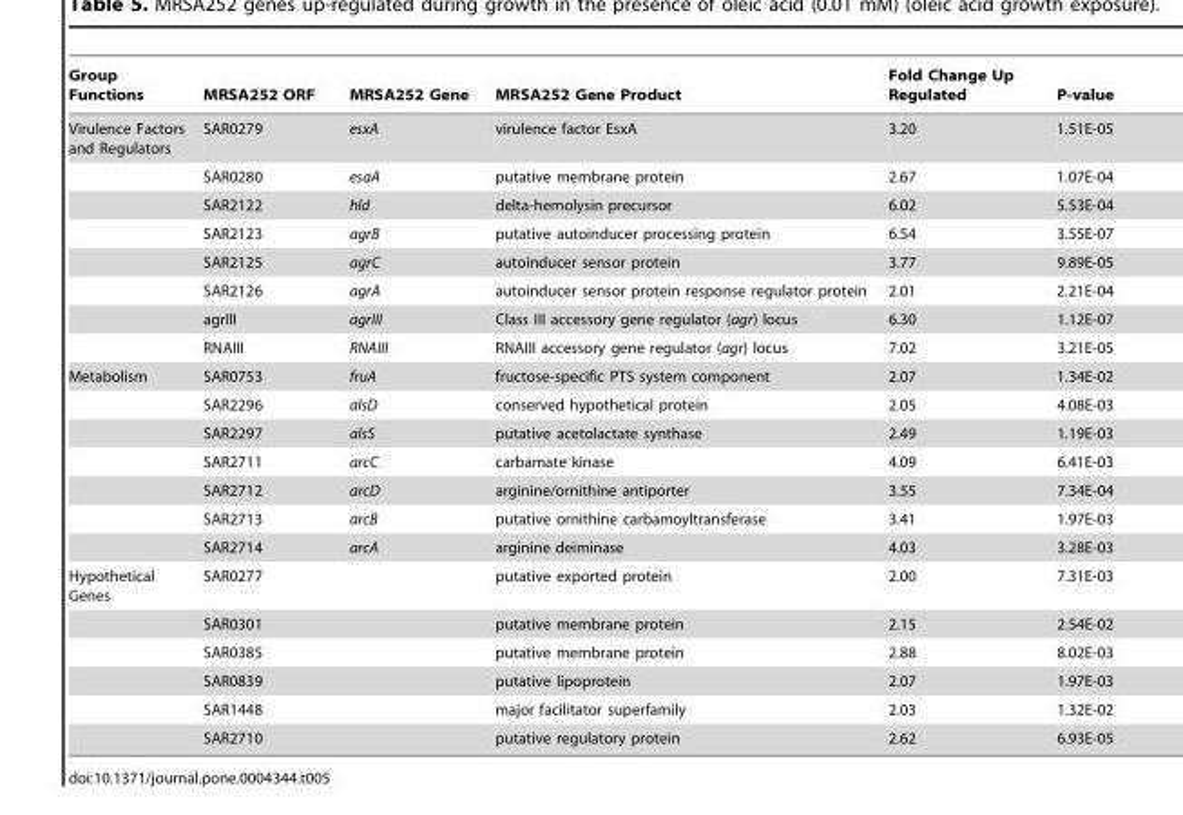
<table><thead><tr><td>Group Functions</td><td>MRSA252 ORF</td><td>MRSA252 Gene</td><td>MRSA252 Gene Product</td><td>Fold Change Up Regulated</td><td>P-value</td></tr></thead><tbody><tr><td rowspan="8">Virulence Factors and Regulators</td><td>SAR0279</td><td>esxA</td><td>virulence factor EsxA</td><td>3.20</td><td>1.51E-05</td></tr><tr><td>SAR0280</td><td>esaA</td><td>putative membrane protein</td><td>2.67</td><td>1.07E-04</td></tr><tr><td>SAR2122</td><td>hld</td><td>delta-hemolysin precursor</td><td>6.02</td><td>5.53E-04</td></tr><tr><td>SAR2123</td><td>agrB</td><td>putative autoinducer processing protein</td><td>6.54</td><td>3.55E-07</td></tr><tr><td>SAR2125</td><td>agrC</td><td>autoinducer sensor protein</td><td>3.77</td><td>9.89E-05</td></tr><tr><td>SAR2126</td><td>agrA</td><td>autoinducer sensor protein response regulator protein</td><td>2.01</td><td>2.21E-04</td></tr><tr><td>agrIII</td><td>agrIII</td><td>Class III accessory gene regulator (agr) locus</td><td>6.30</td><td>1.12E-07</td></tr><tr><td>RNAIII</td><td>RNAIII</td><td>RNAIII accessory gene regulator (agr) locus</td><td>7.02</td><td>3.21E-05</td></tr><tr><td rowspan="7">Metabolism</td><td>SAR0753</td><td>fruA</td><td>fructose-specific PTS system component</td><td>2.07</td><td>1.34E-02</td></tr><tr><td>SAR2296</td><td>alsD</td><td>conserved hypothetical protein</td><td>2.05</td><td>4.08E-03</td></tr><tr><td>SAR2297</td><td>alsS</td><td>putative acetolactate synthase</td><td>2.49</td><td>1.19E-03</td></tr><tr><td>SAR2711</td><td>arcC</td><td>carbamate kinase</td><td>4.09</td><td>6.41E-03</td></tr><tr><td>SAR2712</td><td>arcD</td><td>arginine/ornithine antiporter</td><td>3.55</td><td>7.34E-04</td></tr><tr><td>SAR2713</td><td>arcB</td><td>putative ornithine carbamoyltransferase</td><td>3.41</td><td>1.97E-03</td></tr><tr><td>SAR2714</td><td>arcA</td><td>arginine deiminase</td><td>4.03</td><td>3.28E-03</td></tr><tr><td rowspan="6">Hypothetical Genes</td><td>SAR0277</td><td></td><td>putative exported protein</td><td>2.00</td><td>7.31E-03</td></tr><tr><td>SAR0301</td><td></td><td>putative membrane protein</td><td>2.15</td><td>2.54E-02</td></tr><tr><td>SAR0385</td><td></td><td>putative membrane protein</td><td>2.88</td><td>8.02E-03</td></tr><tr><td>SAR0839</td><td></td><td>putative lipoprotein</td><td>2.07</td><td>1.97E-03</td></tr><tr><td>SAR1448</td><td></td><td>major facilitator superfamily</td><td>2.03</td><td>1.32E-02</td></tr><tr><td>SAR2710</td><td></td><td>putative regulatory protein</td><td>2.62</td><td>6.93E-05</td></tr></tbody></table>